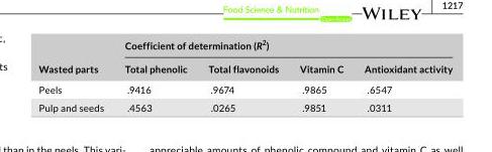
<table><thead><tr><td rowspan="2">Wasted parts</td><td colspan="4">Coefficient of determination (R<sup>2</sup>)</td></tr><tr><td>Total phenolic</td><td>Total flavonoids</td><td>Vitamin C</td><td>Antioxidant activity</td></tr></thead><tbody><tr><td>Peels</td><td>.9416</td><td>.9674</td><td>.9865</td><td>.6547</td></tr><tr><td>Pulp and seeds</td><td>.4563</td><td>.0265</td><td>.9851</td><td>.0311</td></tr></tbody></table>